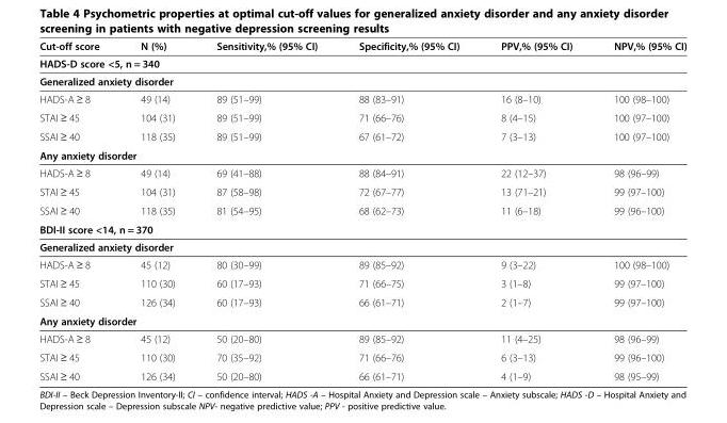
<table><thead><tr><td>Cut-off score</td><td>N (%)</td><td>Sensitivity,% (95% CI)</td><td>Specificity,% (95% CI)</td><td>PPV,% (95% CI)</td><td>NPV,% (95% CI)</td></tr></thead><tbody><tr><td colspan="6">HADS-D score &lt;5, n = 340</td></tr><tr><td colspan="6">Generalized anxiety disorder</td></tr><tr><td>HADS-A ≥ 8</td><td>49 (14)</td><td>89 (51–99)</td><td>88 (83–91)</td><td>16 (8–10)</td><td>100 (98–100)</td></tr><tr><td>STAI ≥ 45</td><td>104 (31)</td><td>89 (51–99)</td><td>71 (66–76)</td><td>8 (4–15)</td><td>100 (97–100)</td></tr><tr><td>SSAI ≥ 40</td><td>118 (35)</td><td>89 (51–99)</td><td>67 (61–72)</td><td>7 (3–13)</td><td>100 (97–100)</td></tr><tr><td colspan="6">Any anxiety disorder</td></tr><tr><td>HADS-A ≥ 8</td><td>49 (14)</td><td>69 (41–88)</td><td>88 (84–91)</td><td>22 (12–37)</td><td>98 (96–99)</td></tr><tr><td>STAI ≥ 45</td><td>104 (31)</td><td>87 (58–98)</td><td>72 (67–77)</td><td>13 (71–21)</td><td>99 (97–100)</td></tr><tr><td>SSAI ≥ 40</td><td>118 (35)</td><td>81 (54–95)</td><td>68 (62–73)</td><td>11 (6–18)</td><td>99 (96–100)</td></tr><tr><td colspan="6">BDI-II score &lt;14, n = 370</td></tr><tr><td colspan="6">Generalized anxiety disorder</td></tr><tr><td>HADS-A ≥ 8</td><td>45 (12)</td><td>80 (30–99)</td><td>89 (85–92)</td><td>9 (3–22)</td><td>100 (98–100)</td></tr><tr><td>STAI ≥ 45</td><td>110 (30)</td><td>60 (17–93)</td><td>71 (66–75)</td><td>3 (1–8)</td><td>99 (97–100)</td></tr><tr><td>SSAI ≥ 40</td><td>126 (34)</td><td>60 (17–93)</td><td>66 (61–71)</td><td>2 (1–7)</td><td>99 (97–100)</td></tr><tr><td colspan="6">Any anxiety disorder</td></tr><tr><td>HADS-A ≥ 8</td><td>45 (12)</td><td>50 (20–80)</td><td>89 (85–92)</td><td>11 (4–25)</td><td>98 (96–99)</td></tr><tr><td>STAI ≥ 45</td><td>110 (30)</td><td>70 (35–92)</td><td>71 (66–76)</td><td>6 (3–13)</td><td>99 (96–100)</td></tr><tr><td>SSAI ≥ 40</td><td>126 (34)</td><td>50 (20–80)</td><td>66 (61–71)</td><td>4 (1–9)</td><td>98 (95–99)</td></tr></tbody></table>